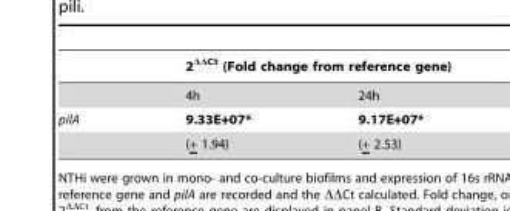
<table><thead><tr><td rowspan="2"></td><td colspan="2">2<sup>ΔΔCt</sup> (Fold change from reference gene)</td></tr><tr><td>4h</td><td>24h</td></tr></thead><tbody><tr><td rowspan="2">pilA</td><td>9.33E+07*</td><td>9.17E+07*</td></tr><tr><td>(+ 1.94)</td><td>(+ 2.53)</td></tr></tbody></table>